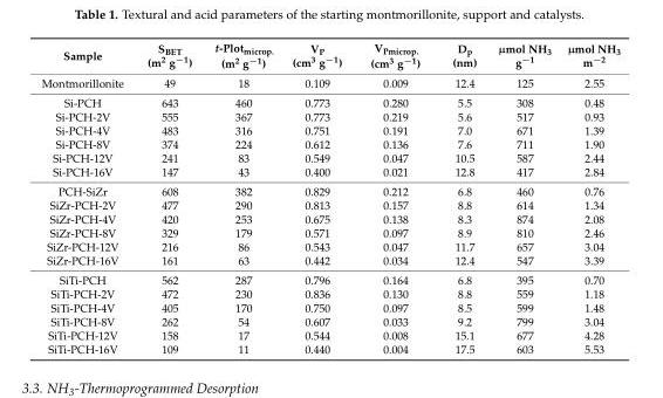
<table><thead><tr><td>Sample</td><td>S<sub>BET</sub> (m<sup>2</sup> g<sup>−1</sup>)</td><td>t-Plot<sub>microp.</sub> (m<sup>2</sup> g<sup>−1</sup>)</td><td>V<sub>P</sub> (cm<sup>3</sup> g<sup>−1</sup>)</td><td>V<sub>Pmicrop.</sub> (cm<sup>3</sup> g<sup>−1</sup>)</td><td>D<sub>p</sub> (nm)</td><td>µmol NH<sub>3</sub> g<sup>−1</sup></td><td>µmol NH<sub>3</sub> m<sup>−2</sup></td></tr></thead><tbody><tr><td>Montmorillonite</td><td>49</td><td>18</td><td>0.109</td><td>0.009</td><td>12.4</td><td>125</td><td>2.55</td></tr><tr><td>Si-PCH</td><td>643</td><td>460</td><td>0.773</td><td>0.280</td><td>5.5</td><td>308</td><td>0.48</td></tr><tr><td>Si-PCH-2V</td><td>555</td><td>367</td><td>0.773</td><td>0.219</td><td>5.6</td><td>517</td><td>0.93</td></tr><tr><td>Si-PCH-4V</td><td>483</td><td>316</td><td>0.751</td><td>0.191</td><td>7.0</td><td>671</td><td>1.39</td></tr><tr><td>Si-PCH-8V</td><td>374</td><td>224</td><td>0.612</td><td>0.136</td><td>7.6</td><td>711</td><td>1.90</td></tr><tr><td>Si-PCH-12V</td><td>241</td><td>83</td><td>0.549</td><td>0.047</td><td>10.5</td><td>587</td><td>2.44</td></tr><tr><td>Si-PCH-16V</td><td>147</td><td>43</td><td>0.400</td><td>0.021</td><td>12.8</td><td>417</td><td>2.84</td></tr><tr><td>PCH-SiZr</td><td>608</td><td>382</td><td>0.829</td><td>0.212</td><td>6.8</td><td>460</td><td>0.76</td></tr><tr><td>SiZr-PCH-2V</td><td>477</td><td>290</td><td>0.813</td><td>0.157</td><td>8.8</td><td>614</td><td>1.34</td></tr><tr><td>SiZr-PCH-4V</td><td>420</td><td>253</td><td>0.675</td><td>0.138</td><td>8.3</td><td>874</td><td>2.08</td></tr><tr><td>SiZr-PCH-8V</td><td>329</td><td>179</td><td>0.571</td><td>0.097</td><td>8.9</td><td>810</td><td>2.46</td></tr><tr><td>SiZr-PCH-12V</td><td>216</td><td>86</td><td>0.543</td><td>0.047</td><td>11.7</td><td>657</td><td>3.04</td></tr><tr><td>SiZr-PCH-16V</td><td>161</td><td>63</td><td>0.442</td><td>0.034</td><td>12.4</td><td>547</td><td>3.39</td></tr><tr><td>SiTi-PCH</td><td>562</td><td>287</td><td>0.796</td><td>0.164</td><td>6.8</td><td>395</td><td>0.70</td></tr><tr><td>SiTi-PCH-2V</td><td>472</td><td>230</td><td>0.836</td><td>0.130</td><td>8.8</td><td>559</td><td>1.18</td></tr><tr><td>SiTi-PCH-4V</td><td>405</td><td>170</td><td>0.750</td><td>0.097</td><td>8.5</td><td>599</td><td>1.48</td></tr><tr><td>SiTi-PCH-8V</td><td>262</td><td>54</td><td>0.607</td><td>0.033</td><td>9.2</td><td>799</td><td>3.04</td></tr><tr><td>SiTi-PCH-12V</td><td>158</td><td>17</td><td>0.544</td><td>0.008</td><td>15.1</td><td>677</td><td>4.28</td></tr><tr><td>SiTi-PCH-16V</td><td>109</td><td>11</td><td>0.440</td><td>0.004</td><td>17.5</td><td>603</td><td>5.53</td></tr></tbody></table>